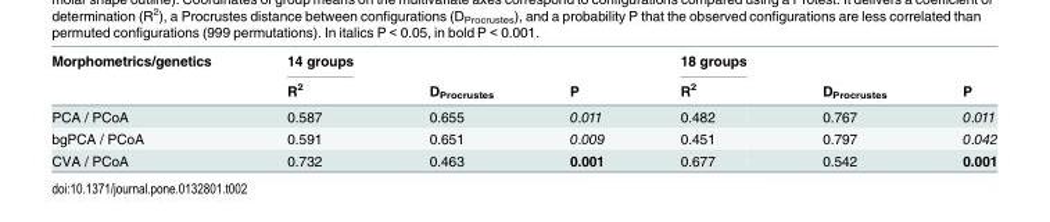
<table><thead><tr><td rowspan="2">Morphometrics/genetics</td><td rowspan="2">14 groups R<sup>2</sup></td><td rowspan="2">D<sub>Procrustes</sub></td><td rowspan="2">P</td><td rowspan="2">18 groups R<sup>2</sup></td><td rowspan="2">D<sub>Procrustes</sub></td><td rowspan="2">P</td></tr><tr></tr></thead><tbody><tr><td>PCA / PCoA</td><td>0.587</td><td>0.655</td><td>0.011</td><td>0.482</td><td>0.767</td><td>0.011</td></tr><tr><td>bgPCA / PCoA</td><td>0.591</td><td>0.651</td><td>0.009</td><td>0.451</td><td>0.797</td><td>0.042</td></tr><tr><td>CVA / PCoA</td><td>0.732</td><td>0.463</td><td>0.001</td><td>0.677</td><td>0.542</td><td>0.001</td></tr></tbody></table>